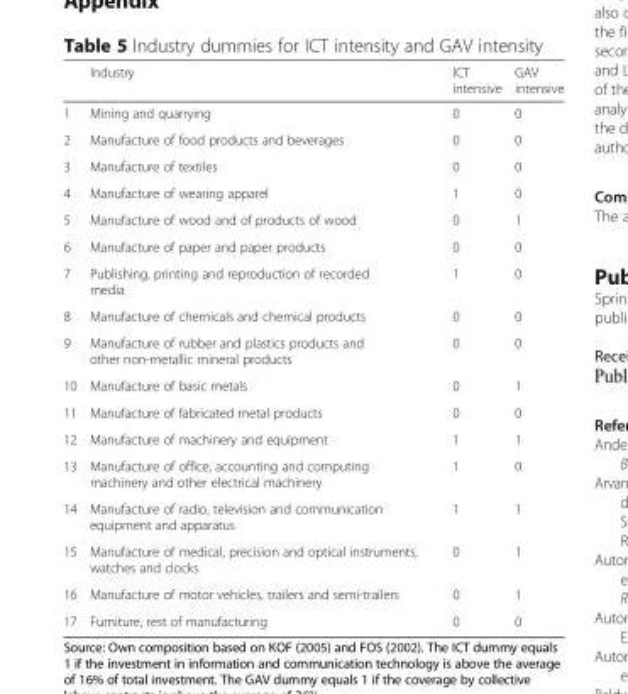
<table><thead><tr><td></td><td>Industry</td><td>ICT intensive</td><td>GAV intensive</td></tr></thead><tbody><tr><td>1</td><td>Mining and quarrying</td><td>0</td><td>0</td></tr><tr><td>2</td><td>Manufacture of food products and beverages</td><td>0</td><td>0</td></tr><tr><td>3</td><td>Manufacture of textiles</td><td>0</td><td>0</td></tr><tr><td>4</td><td>Manufacture of wearing apparel</td><td>1</td><td>0</td></tr><tr><td>5</td><td>Manufacture of wood and of products of wood</td><td>0</td><td>1</td></tr><tr><td>6</td><td>Manufacture of paper and paper products</td><td>0</td><td>0</td></tr><tr><td>7</td><td>Publishing, printing and reproduction of recorded media</td><td>1</td><td>0</td></tr><tr><td>8</td><td>Manufacture of chemicals and chemical products</td><td>0</td><td>0</td></tr><tr><td>9</td><td>Manufacture of rubber and plastics products and other non-metallic mineral products</td><td>0</td><td>0</td></tr><tr><td>10</td><td>Manufacture of basic metals</td><td>0</td><td>1</td></tr><tr><td>11</td><td>Manufacture of fabricated metal products</td><td>0</td><td>0</td></tr><tr><td>12</td><td>Manufacture of machinery and equipment</td><td>1</td><td>1</td></tr><tr><td>13</td><td>Manufacture of office, accounting and computing machinery and other electrical machinery</td><td>1</td><td>0</td></tr><tr><td>14</td><td>Manufacture of radio, television and communication equipment and apparatus</td><td>1</td><td>1</td></tr><tr><td>15</td><td>Manufacture of medical, precision and optical instruments, watches and clocks</td><td>0</td><td>1</td></tr><tr><td>16</td><td>Manufacture of motor vehicles, trailers and semi-trailers</td><td>0</td><td>1</td></tr><tr><td>17</td><td>Furniture, rest of manufacturing</td><td>0</td><td>0</td></tr></tbody></table>